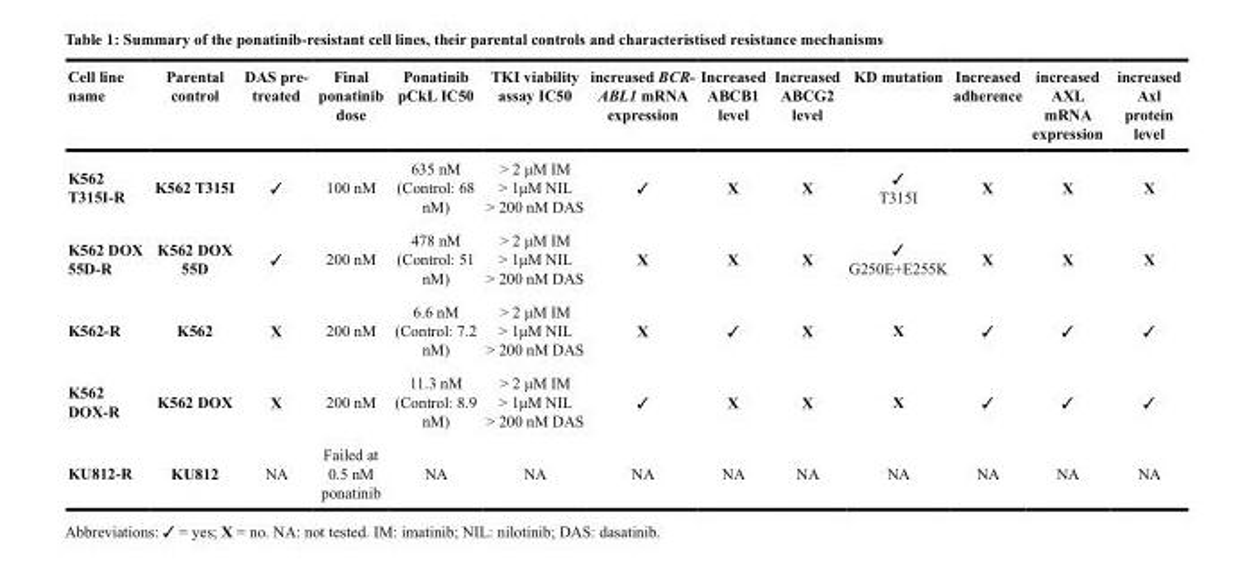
<table><thead><tr><td>Cell line name</td><td>Parental control</td><td>DAS pre- treated</td><td>Final ponatinib dose</td><td>Ponatinib pCkL IC50</td><td>TKI viability assay IC50</td><td>increased BCR- ABL1 mRNA expression</td><td>Increased ABCB1 level</td><td>Increased ABCG2 level</td><td>KD mutation</td><td>Increased adherence</td><td>increased AXL mRNA expression</td><td>increased Axl protein level</td></tr></thead><tbody><tr><td>K562 T315I-R</td><td>K562 T315I</td><td>✓</td><td>100 nM</td><td>635 nM (Control: 68 nM)</td><td>&gt; 2 μM IM &gt; 1μM NIL &gt; 200 nM DAS</td><td>✓</td><td>X</td><td>X</td><td>✓ T315I</td><td>X</td><td>X</td><td>X</td></tr><tr><td>K562 DOX 55D-R</td><td>K562 DOX 55D</td><td>✓</td><td>200 nM</td><td>478 nM (Control: 51 nM)</td><td>&gt; 2 μM IM &gt; 1μM NIL &gt; 200 nM DAS</td><td>X</td><td>X</td><td>X</td><td>✓ G250E+E255K</td><td>X</td><td>X</td><td>X</td></tr><tr><td>K562-R</td><td>K562</td><td>X</td><td>200 nM</td><td>6.6 nM (Control: 7.2 nM)</td><td>&gt; 2 μM IM &gt; 1μM NIL &gt; 200 nM DAS</td><td>X</td><td>✓</td><td>X</td><td>X</td><td>✓</td><td>✓</td><td>✓</td></tr><tr><td>K562 DOX-R</td><td>K562 DOX</td><td>X</td><td>200 nM</td><td>11.3 nM (Control: 8.9 nM)</td><td>&gt; 2 μM IM &gt; 1μM NIL &gt; 200 nM DAS</td><td>✓</td><td>X</td><td>X</td><td>X</td><td>✓</td><td>✓</td><td>✓</td></tr><tr><td>KU812-R</td><td>KU812</td><td>NA</td><td>Failed at 0.5 nM ponatinib</td><td>NA</td><td>NA</td><td>NA</td><td>NA</td><td>NA</td><td>NA</td><td>NA</td><td>NA</td><td>NA</td></tr></tbody></table>